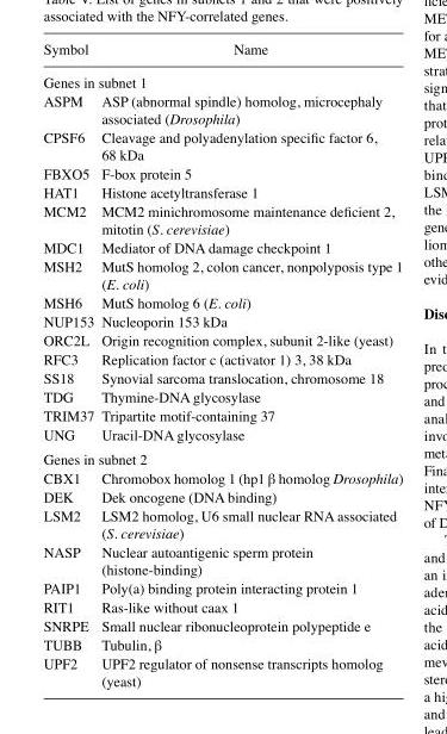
<table><thead><tr><td>Symbol</td><td>Name</td></tr></thead><tbody><tr><td colspan="2">Genes in subnet 1</td></tr><tr><td>ASPM</td><td>ASP (abnormal spindle) homolog, microcephaly associated (Drosophila)</td></tr><tr><td>CPSF6</td><td>Cleavage and polyadenylation specific factor 6, 68 kDa</td></tr><tr><td>FBXO5</td><td>F-box protein 5</td></tr><tr><td>HAT1</td><td>Histone acetyltransferase 1</td></tr><tr><td>MCM2</td><td>MCM2 minichromosome maintenance deficient 2, mitotin (S. cerevisiae)</td></tr><tr><td>MDC1</td><td>Mediator of DNA damage checkpoint 1</td></tr><tr><td>MSH2</td><td>MutS homolog 2, colon cancer, nonpolyposis type 1 (E. coli)</td></tr><tr><td>MSH6</td><td>MutS homolog 6 (E. coli)</td></tr><tr><td>NUP153</td><td>Nucleoporin 153 kDa</td></tr><tr><td>ORC2L</td><td>Origin recognition complex, subunit 2-like (yeast)</td></tr><tr><td>RFC3</td><td>Replication factor c (activator 1) 3, 38 kDa</td></tr><tr><td>SS18</td><td>Synovial sarcoma translocation, chromosome 18</td></tr><tr><td>TDG</td><td>Thymine-DNA glycosylase</td></tr><tr><td>TRIM37</td><td>Tripartite motif-containing 37</td></tr><tr><td>UNG</td><td>Uracil-DNA glycosylase</td></tr><tr><td colspan="2">Genes in subnet 2</td></tr><tr><td>CBX1</td><td>Chromobox homolog 1 (hp1 β homolog Drosophila)</td></tr><tr><td>DEK</td><td>Dek oncogene (DNA binding)</td></tr><tr><td>LSM2</td><td>LSM2 homolog, U6 small nuclear RNA associated (S. cerevisiae)</td></tr><tr><td>NASP</td><td>Nuclear autoantigenic sperm protein (histone-binding)</td></tr><tr><td>PAIP1</td><td>Poly(a) binding protein interacting protein 1</td></tr><tr><td>RIT1</td><td>Ras-like without caax 1</td></tr><tr><td>SNRPE</td><td>Small nuclear ribonucleoprotein polypeptide e</td></tr><tr><td>TUBB</td><td>Tubulin, β</td></tr><tr><td>UPF2</td><td>UPF2 regulator of nonsense transcripts homolog (yeast)</td></tr></tbody></table>